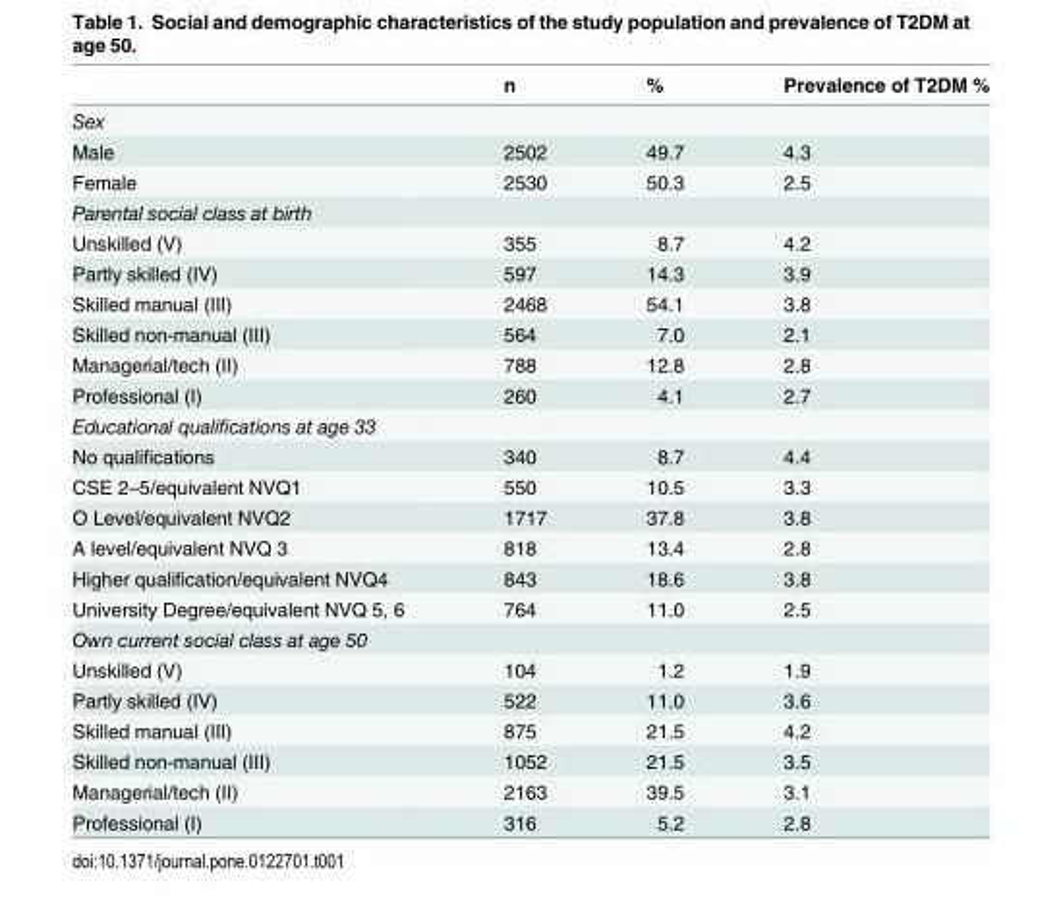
<table><thead><tr><td></td><td>n</td><td>%</td><td>Prevalence of T2DM %</td></tr></thead><tbody><tr><td colspan="4">Sex</td></tr><tr><td>Male</td><td>2502</td><td>49.7</td><td>4.3</td></tr><tr><td>Female</td><td>2530</td><td>50.3</td><td>2.5</td></tr><tr><td colspan="4">Parental social class at birth</td></tr><tr><td>Unskilled (V)</td><td>355</td><td>8.7</td><td>4.2</td></tr><tr><td>Partly skilled (IV)</td><td>597</td><td>14.3</td><td>3.9</td></tr><tr><td>Skilled manual (III)</td><td>2468</td><td>54.1</td><td>3.8</td></tr><tr><td>Skilled non-manual (III)</td><td>564</td><td>7.0</td><td>2.1</td></tr><tr><td>Managerial/tech (II)</td><td>788</td><td>12.8</td><td>2.8</td></tr><tr><td>Professional (I)</td><td>260</td><td>4.1</td><td>2.7</td></tr><tr><td colspan="4">Educational qualifications at age 33</td></tr><tr><td>No qualifications</td><td>340</td><td>8.7</td><td>4.4</td></tr><tr><td>CSE 2–5/equivalent NVQ1</td><td>550</td><td>10.5</td><td>3.3</td></tr><tr><td>O Level/equivalent NVQ2</td><td>1717</td><td>37.8</td><td>3.8</td></tr><tr><td>A level/equivalent NVQ 3</td><td>818</td><td>13.4</td><td>2.8</td></tr><tr><td>Higher qualification/equivalent NVQ4</td><td>843</td><td>18.6</td><td>3.8</td></tr><tr><td>University Degree/equivalent NVQ 5, 6</td><td>764</td><td>11.0</td><td>2.5</td></tr><tr><td colspan="4">Own current social class at age 50</td></tr><tr><td>Unskilled (V)</td><td>104</td><td>1.2</td><td>1.9</td></tr><tr><td>Partly skilled (IV)</td><td>522</td><td>11.0</td><td>3.6</td></tr><tr><td>Skilled manual (III)</td><td>875</td><td>21.5</td><td>4.2</td></tr><tr><td>Skilled non-manual (III)</td><td>1052</td><td>21.5</td><td>3.5</td></tr><tr><td>Managerial/tech (II)</td><td>2163</td><td>39.5</td><td>3.1</td></tr><tr><td>Professional (I)</td><td>316</td><td>5.2</td><td>2.8</td></tr></tbody></table>